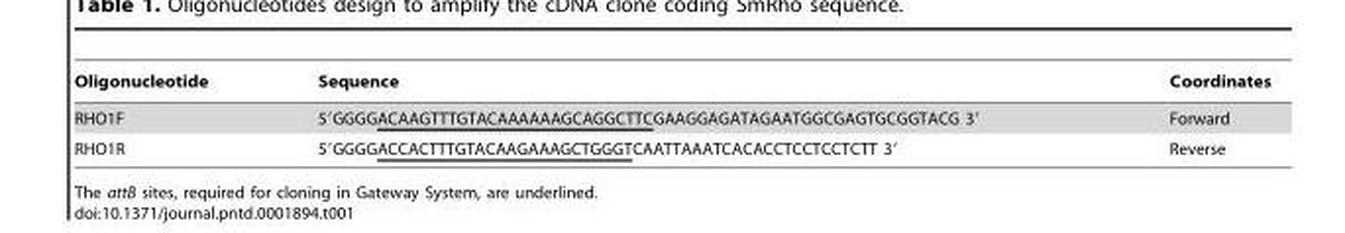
<table><thead><tr><td>Oligonucleotide</td><td>Sequence</td><td>Coordinates</td></tr></thead><tbody><tr><td>RHO1F</td><td>5′GGGGACAAGTTTGTACAAAAAAGCAGGCTTCGAAGGAGATAGAATGGCGAGTGCGGTACG 3′</td><td>Forward</td></tr><tr><td>RHO1R</td><td>5′GGGGACCACTTTGTACAAGAAAGCTGGGTCAATTAAATCACACCTCCTCCTCTT 3′</td><td>Reverse</td></tr></tbody></table>